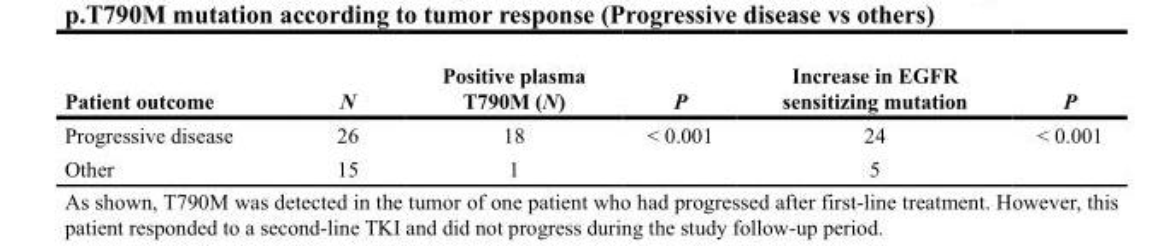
<table><thead><tr><td>Patient outcome</td><td>N</td><td>Positive plasma T790M (N)</td><td>P</td><td>Increase in EGFR sensitizing mutation</td><td>P</td></tr></thead><tbody><tr><td>Progressive disease</td><td>26</td><td>18</td><td>&lt; 0.001</td><td>24</td><td>&lt; 0.001</td></tr><tr><td>Other</td><td>15</td><td>1</td><td></td><td>5</td><td></td></tr></tbody></table>